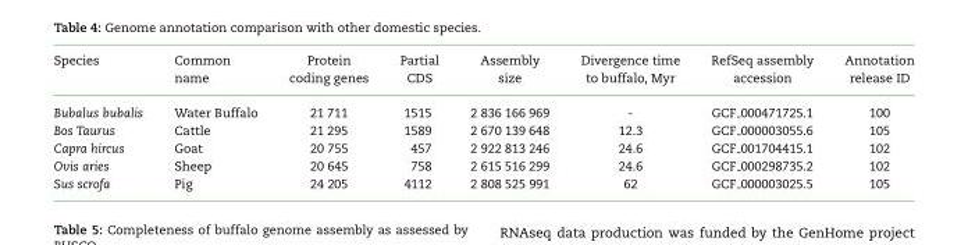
<table><thead><tr><td rowspan="2">Species</td><td rowspan="2">Common name</td><td rowspan="2">Protein coding genes</td><td rowspan="2">Partial CDS</td><td rowspan="2">Assembly size</td><td rowspan="2">Divergence time to buffalo, Myr</td><td rowspan="2">RefSeq assembly accession</td><td rowspan="2">Annotation release ID</td></tr><tr></tr></thead><tbody><tr><td>Bubalus bubalis</td><td>Water Buffalo</td><td>21 711</td><td>1515</td><td>2 836 166 969</td><td>-</td><td>GCF 000471725.1</td><td>100</td></tr><tr><td>Bos Taurus</td><td>Cattle</td><td>21 295</td><td>1589</td><td>2 670 139 648</td><td>12.3</td><td>GCF 000003055.6</td><td>105</td></tr><tr><td>Capra hircus</td><td>Goat</td><td>20 755</td><td>457</td><td>2 922 813 246</td><td>24.6</td><td>GCF 001704415.1</td><td>102</td></tr><tr><td>Ovis aries</td><td>Sheep</td><td>20 645</td><td>758</td><td>2 615 516 299</td><td>24.6</td><td>GCF 000298735.2</td><td>102</td></tr><tr><td>Sus scrofa</td><td>Pig</td><td>24 205</td><td>4112</td><td>2 808 525 991</td><td>62</td><td>GCF 000003025.5</td><td>105</td></tr></tbody></table>